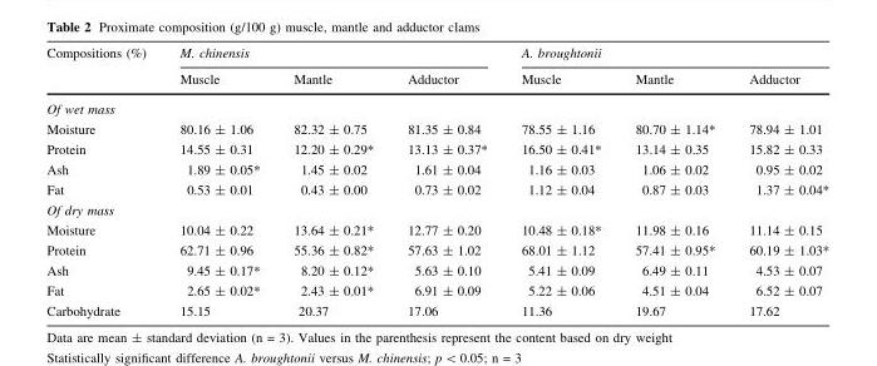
<table><thead><tr><td rowspan="2">Compositions (%)</td><td colspan="3">M. chinensis</td><td colspan="3">A. broughtonii</td></tr><tr><td>Muscle</td><td>Mantle</td><td>Adductor</td><td>Muscle</td><td>Mantle</td><td>Adductor</td></tr></thead><tbody><tr><td colspan="7">Of wet mass</td></tr><tr><td>Moisture</td><td>80.16 ± 1.06</td><td>82.32 ± 0.75</td><td>81.35 ± 0.84</td><td>78.55 ± 1.16</td><td>80.70 ± 1.14*</td><td>78.94 ± 1.01</td></tr><tr><td>Protein</td><td>14.55 ± 0.31</td><td>12.20 ± 0.29*</td><td>13.13 ± 0.37*</td><td>16.50 ± 0.41*</td><td>13.14 ± 0.35</td><td>15.82 ± 0.33</td></tr><tr><td>Ash</td><td>1.89 ± 0.05*</td><td>1.45 ± 0.02</td><td>1.61 ± 0.04</td><td>1.16 ± 0.03</td><td>1.06 ± 0.02</td><td>0.95 ± 0.02</td></tr><tr><td>Fat</td><td>0.53 ± 0.01</td><td>0.43 ± 0.00</td><td>0.73 ± 0.02</td><td>1.12 ± 0.04</td><td>0.87 ± 0.03</td><td>1.37 ± 0.04*</td></tr><tr><td colspan="7">Of dry mass</td></tr><tr><td>Moisture</td><td>10.04 ± 0.22</td><td>13.64 ± 0.21*</td><td>12.77 ± 0.20</td><td>10.48 ± 0.18*</td><td>11.98 ± 0.16</td><td>11.14 ± 0.15</td></tr><tr><td>Protein</td><td>62.71 ± 0.96</td><td>55.36 ± 0.82*</td><td>57.63 ± 1.02</td><td>68.01 ± 1.12</td><td>57.41 ± 0.95*</td><td>60.19 ± 1.03*</td></tr><tr><td>Ash</td><td>9.45 ± 0.17*</td><td>8.20 ± 0.12*</td><td>5.63 ± 0.10</td><td>5.41 ± 0.09</td><td>6.49 ± 0.11</td><td>4.53 ± 0.07</td></tr><tr><td>Fat</td><td>2.65 ± 0.02*</td><td>2.43 ± 0.01*</td><td>6.91 ± 0.09</td><td>5.22 ± 0.06</td><td>4.51 ± 0.04</td><td>6.52 ± 0.07</td></tr><tr><td>Carbohydrate</td><td>15.15</td><td>20.37</td><td>17.06</td><td>11.36</td><td>19.67</td><td>17.62</td></tr></tbody></table>